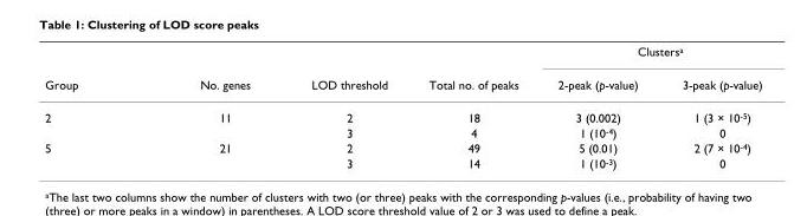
<table><thead><tr><td rowspan="2">Group</td><td rowspan="2">No. genes</td><td rowspan="2">LOD threshold</td><td rowspan="2">Total no. of peaks</td><td colspan="2">Clusters<sup>a</sup></td></tr><tr><td>2-peak (p-value)</td><td>3-peak (p-value)</td></tr></thead><tbody><tr><td rowspan="2">2</td><td>11</td><td>2</td><td>18</td><td>3 (0.002)</td><td>1 (3 × 10<sup>-5</sup>)</td></tr><tr><td></td><td>3</td><td>4</td><td>1 (10<sup>-4</sup>)</td><td>0</td></tr><tr><td rowspan="2">5</td><td>21</td><td>2</td><td>49</td><td>5 (0.01)</td><td>2 (7 × 10<sup>-4</sup>)</td></tr><tr><td></td><td>3</td><td>14</td><td>1 (10<sup>-3</sup>)</td><td>0</td></tr></tbody></table>